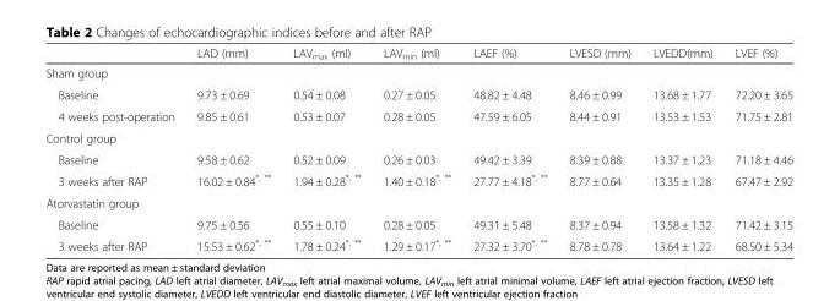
<table><thead><tr><td></td><td>LAD (mm)</td><td>LAV<sub>max</sub> (ml)</td><td>LAV<sub>min</sub> (ml)</td><td>LAEF (%)</td><td>LVESD (mm)</td><td>LVEDD(mm)</td><td>LVEF (%)</td></tr></thead><tbody><tr><td colspan="8">Sham group</td></tr><tr><td>Baseline</td><td>9.73 ± 0.69</td><td>0.54 ± 0.08</td><td>0.27 ± 0.05</td><td>48.82 ± 4.48</td><td>8.46 ± 0.99</td><td>13.68 ± 1.77</td><td>72.20 ± 3.65</td></tr><tr><td>4 weeks post-operation</td><td>9.85 ± 0.61</td><td>0.53 ± 0.07</td><td>0.28 ± 0.05</td><td>47.59 ± 6.05</td><td>8.44 ± 0.91</td><td>13.53 ± 1.53</td><td>71.75 ± 2.81</td></tr><tr><td colspan="8">Control group</td></tr><tr><td>Baseline</td><td>9.58 ± 0.62</td><td>0.52 ± 0.09</td><td>0.26 ± 0.03</td><td>49.42 ± 3.39</td><td>8.39 ± 0.88</td><td>13.37 ± 1.23</td><td>71.18 ± 4.46</td></tr><tr><td>3 weeks after RAP</td><td>16.02 ± 0.84<sup>*, **</sup></td><td>1.94 ± 0.28<sup>*, **</sup></td><td>1.40 ± 0.18<sup>*, **</sup></td><td>27.77 ± 4.18<sup>*, **</sup></td><td>8.77 ± 0.64</td><td>13.35 ± 1.28</td><td>67.47 ± 2.92</td></tr><tr><td colspan="8">Atorvastatin group</td></tr><tr><td>Baseline</td><td>9.75 ± 0.56</td><td>0.55 ± 0.10</td><td>0.28 ± 0.05</td><td>49.31 ± 5.48</td><td>8.37 ± 0.94</td><td>13.58 ± 1.32</td><td>71.42 ± 3.15</td></tr><tr><td>3 weeks after RAP</td><td>15.53 ± 0.62<sup>*, **</sup></td><td>1.78 ± 0.24<sup>*, **</sup></td><td>1.29 ± 0.17<sup>*, **</sup></td><td>27.32 ± 3.70<sup>*, **</sup></td><td>8.78 ± 0.78</td><td>13.64 ± 1.22</td><td>68.50 ± 5.34</td></tr></tbody></table>